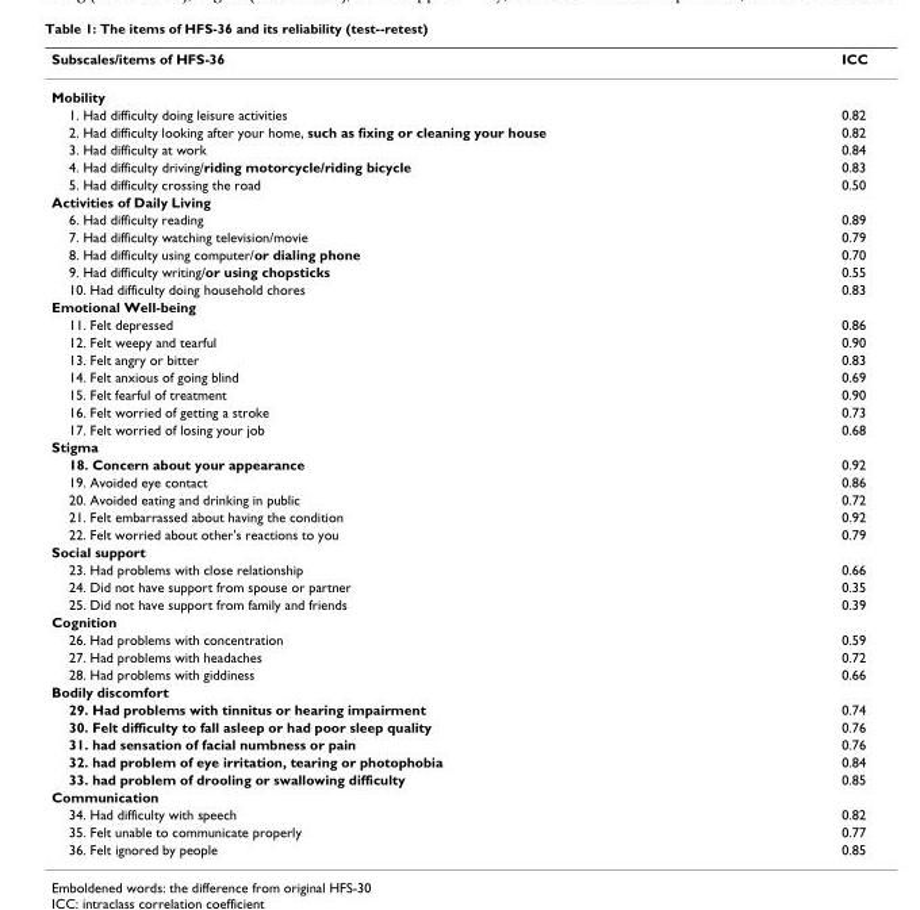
<table><thead><tr><td>Subscales/items of HFS-36</td><td>ICC</td></tr></thead><tbody><tr><td colspan="2">Mobility</td></tr><tr><td>1. Had difficulty doing leisure activities</td><td>0.82</td></tr><tr><td>2. Had difficulty looking after your home, such as fixing or cleaning your house</td><td>0.82</td></tr><tr><td>3. Had difficulty at work</td><td>0.84</td></tr><tr><td>4. Had difficulty driving/riding motorcycle/riding bicycle</td><td>0.83</td></tr><tr><td>5. Had difficulty crossing the road</td><td>0.50</td></tr><tr><td colspan="2">Activities of Daily Living</td></tr><tr><td>6. Had difficulty reading</td><td>0.89</td></tr><tr><td>7. Had difficulty watching television/movie</td><td>0.79</td></tr><tr><td>8. Had difficulty using computer/or dialing phone</td><td>0.70</td></tr><tr><td>9. Had difficulty writing/or using chopsticks</td><td>0.55</td></tr><tr><td>10. Had difficulty doing household chores</td><td>0.83</td></tr><tr><td colspan="2">Emotional Well-being</td></tr><tr><td>11. Felt depressed</td><td>0.86</td></tr><tr><td>12. Felt weepy and tearful</td><td>0.90</td></tr><tr><td>13. Felt angry or bitter</td><td>0.83</td></tr><tr><td>14. Felt anxious of going blind</td><td>0.69</td></tr><tr><td>15. Felt fearful of treatment</td><td>0.90</td></tr><tr><td>16. Felt worried of getting a stroke</td><td>0.73</td></tr><tr><td>17. Felt worried of losing your job</td><td>0.68</td></tr><tr><td colspan="2">Stigma</td></tr><tr><td>18. Concern about your appearance</td><td>0.92</td></tr><tr><td>19. Avoided eye contact</td><td>0.86</td></tr><tr><td>20. Avoided eating and drinking in public</td><td>0.72</td></tr><tr><td>21. Felt embarrassed about having the condition</td><td>0.92</td></tr><tr><td>22. Felt worried about other&#x27;s reactions to you</td><td>0.79</td></tr><tr><td colspan="2">Social support</td></tr><tr><td>23. Had problems with close relationship</td><td>0.66</td></tr><tr><td>24. Did not have support from spouse or partner</td><td>0.35</td></tr><tr><td>25. Did not have support from family and friends</td><td>0.39</td></tr><tr><td colspan="2">Cognition</td></tr><tr><td>26. Had problems with concentration</td><td>0.59</td></tr><tr><td>27. Had problems with headaches</td><td>0.72</td></tr><tr><td>28. Had problems with giddiness</td><td>0.66</td></tr><tr><td colspan="2">Bodily discomfort</td></tr><tr><td>29. Had problems with tinnitus or hearing impairment</td><td>0.74</td></tr><tr><td>30. Felt difficulty to fall asleep or had poor sleep quality</td><td>0.76</td></tr><tr><td>31. had sensation of facial numbness or pain</td><td>0.76</td></tr><tr><td>32. had problem of eye irritation, tearing or photophobia</td><td>0.84</td></tr><tr><td>33. had problem of drooling or swallowing difficulty</td><td>0.85</td></tr><tr><td colspan="2">Communication</td></tr><tr><td>34. Had difficulty with speech</td><td>0.82</td></tr><tr><td>35. Felt unable to communicate properly</td><td>0.77</td></tr><tr><td>36. Felt ignored by people</td><td>0.85</td></tr></tbody></table>